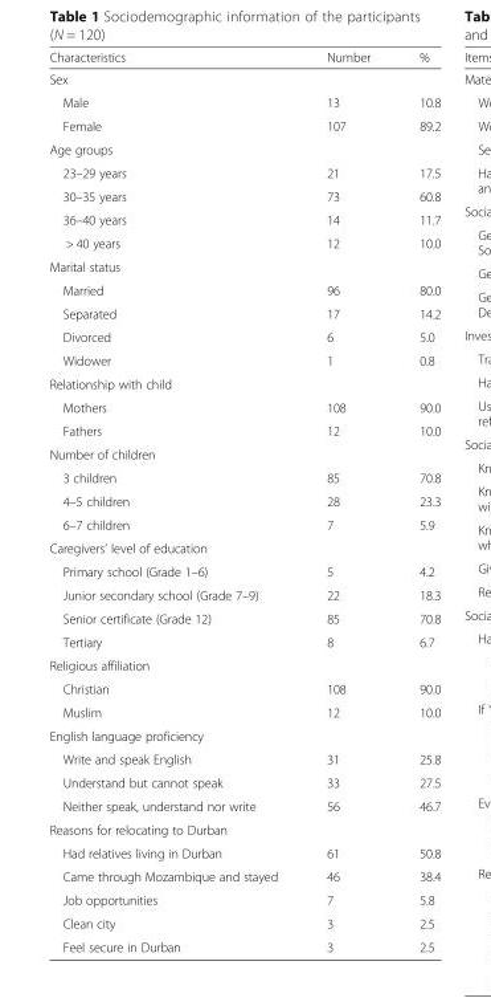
<table><thead><tr><td>Characteristics</td><td>Number</td><td>%</td></tr></thead><tbody><tr><td colspan="3">Sex</td></tr><tr><td>Male</td><td>13</td><td>10.8</td></tr><tr><td>Female</td><td>107</td><td>89.2</td></tr><tr><td colspan="3">Age groups</td></tr><tr><td>23–29 years</td><td>21</td><td>17.5</td></tr><tr><td>30–35 years</td><td>73</td><td>60.8</td></tr><tr><td>36–40 years</td><td>14</td><td>11.7</td></tr><tr><td>&gt; 40 years</td><td>12</td><td>10.0</td></tr><tr><td colspan="3">Marital status</td></tr><tr><td>Married</td><td>96</td><td>80.0</td></tr><tr><td>Separated</td><td>17</td><td>14.2</td></tr><tr><td>Divorced</td><td>6</td><td>5.0</td></tr><tr><td>Widower</td><td>1</td><td>0.8</td></tr><tr><td colspan="3">Relationship with child</td></tr><tr><td>Mothers</td><td>108</td><td>90.0</td></tr><tr><td>Fathers</td><td>12</td><td>10.0</td></tr><tr><td colspan="3">Number of children</td></tr><tr><td>3 children</td><td>85</td><td>70.8</td></tr><tr><td>4–5 children</td><td>28</td><td>23.3</td></tr><tr><td>6–7 children</td><td>7</td><td>5.9</td></tr><tr><td colspan="3">Caregivers’ level of education</td></tr><tr><td>Primary school (Grade 1–6)</td><td>5</td><td>4.2</td></tr><tr><td>Junior secondary school (Grade 7–9)</td><td>22</td><td>18.3</td></tr><tr><td>Senior certificate (Grade 12)</td><td>85</td><td>70.8</td></tr><tr><td>Tertiary</td><td>8</td><td>6.7</td></tr><tr><td colspan="3">Religious affiliation</td></tr><tr><td>Christian</td><td>108</td><td>90.0</td></tr><tr><td>Muslim</td><td>12</td><td>10.0</td></tr><tr><td colspan="3">English language proficiency</td></tr><tr><td>Write and speak English</td><td>31</td><td>25.8</td></tr><tr><td>Understand but cannot speak</td><td>33</td><td>27.5</td></tr><tr><td>Neither speak, understand nor write</td><td>56</td><td>46.7</td></tr><tr><td colspan="3">Reasons for relocating to Durban</td></tr><tr><td>Had relatives living in Durban</td><td>61</td><td>50.8</td></tr><tr><td>Came through Mozambique and stayed</td><td>46</td><td>38.4</td></tr><tr><td>Job opportunities</td><td>7</td><td>5.8</td></tr><tr><td>Clean city</td><td>3</td><td>2.5</td></tr><tr><td>Feel secure in Durban</td><td>3</td><td>2.5</td></tr></tbody></table>